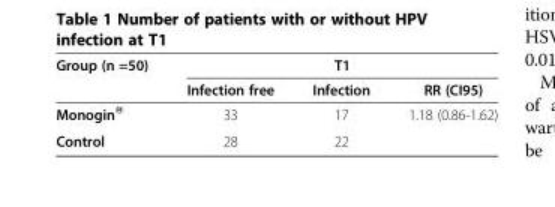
<table><thead><tr><td rowspan="2">Group (n =50)</td><td colspan="3">T1</td></tr><tr><td>Infection free</td><td>Infection</td><td>RR (CI95)</td></tr></thead><tbody><tr><td>Monogin®</td><td>33</td><td>17</td><td>1.18 (0.86-1.62)</td></tr><tr><td>Control</td><td>28</td><td>22</td><td></td></tr></tbody></table>